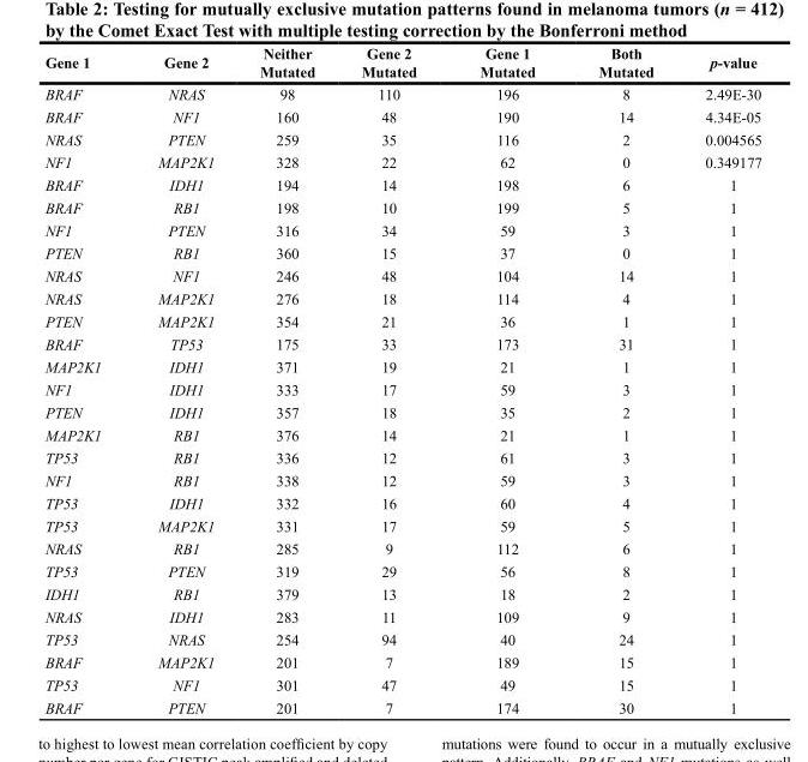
<table><thead><tr><td>Gene 1</td><td>Gene 2</td><td>Neither Mutated</td><td>Gene 2 Mutated</td><td>Gene 1 Mutated</td><td>Both Mutated</td><td>p-value</td></tr></thead><tbody><tr><td>BRAF</td><td>NRAS</td><td>98</td><td>110</td><td>196</td><td>8</td><td>2.49E-30</td></tr><tr><td>BRAF</td><td>NF1</td><td>160</td><td>48</td><td>190</td><td>14</td><td>4.34E-05</td></tr><tr><td>NRAS</td><td>PTEN</td><td>259</td><td>35</td><td>116</td><td>2</td><td>0.004565</td></tr><tr><td>NF1</td><td>MAP2K1</td><td>328</td><td>22</td><td>62</td><td>0</td><td>0.349177</td></tr><tr><td>BRAF</td><td>IDH1</td><td>194</td><td>14</td><td>198</td><td>6</td><td>1</td></tr><tr><td>BRAF</td><td>RB1</td><td>198</td><td>10</td><td>199</td><td>5</td><td>1</td></tr><tr><td>NF1</td><td>PTEN</td><td>316</td><td>34</td><td>59</td><td>3</td><td>1</td></tr><tr><td>PTEN</td><td>RB1</td><td>360</td><td>15</td><td>37</td><td>0</td><td>1</td></tr><tr><td>NRAS</td><td>NF1</td><td>246</td><td>48</td><td>104</td><td>14</td><td>1</td></tr><tr><td>NRAS</td><td>MAP2K1</td><td>276</td><td>18</td><td>114</td><td>4</td><td>1</td></tr><tr><td>PTEN</td><td>MAP2K1</td><td>354</td><td>21</td><td>36</td><td>1</td><td>1</td></tr><tr><td>BRAF</td><td>TP53</td><td>175</td><td>33</td><td>173</td><td>31</td><td>1</td></tr><tr><td>MAP2K1</td><td>IDH1</td><td>371</td><td>19</td><td>21</td><td>1</td><td>1</td></tr><tr><td>NF1</td><td>IDH1</td><td>333</td><td>17</td><td>59</td><td>3</td><td>1</td></tr><tr><td>PTEN</td><td>IDH1</td><td>357</td><td>18</td><td>35</td><td>2</td><td>1</td></tr><tr><td>MAP2K1</td><td>RB1</td><td>376</td><td>14</td><td>21</td><td>1</td><td>1</td></tr><tr><td>TP53</td><td>RB1</td><td>336</td><td>12</td><td>61</td><td>3</td><td>1</td></tr><tr><td>NF1</td><td>RB1</td><td>338</td><td>12</td><td>59</td><td>3</td><td>1</td></tr><tr><td>TP53</td><td>IDH1</td><td>332</td><td>16</td><td>60</td><td>4</td><td>1</td></tr><tr><td>TP53</td><td>MAP2K1</td><td>331</td><td>17</td><td>59</td><td>5</td><td>1</td></tr><tr><td>NRAS</td><td>RB1</td><td>285</td><td>9</td><td>112</td><td>6</td><td>1</td></tr><tr><td>TP53</td><td>PTEN</td><td>319</td><td>29</td><td>56</td><td>8</td><td>1</td></tr><tr><td>IDH1</td><td>RB1</td><td>379</td><td>13</td><td>18</td><td>2</td><td>1</td></tr><tr><td>NRAS</td><td>IDH1</td><td>283</td><td>11</td><td>109</td><td>9</td><td>1</td></tr><tr><td>TP53</td><td>NRAS</td><td>254</td><td>94</td><td>40</td><td>24</td><td>1</td></tr><tr><td>BRAF</td><td>MAP2K1</td><td>201</td><td>7</td><td>189</td><td>15</td><td>1</td></tr><tr><td>TP53</td><td>NF1</td><td>301</td><td>47</td><td>49</td><td>15</td><td>1</td></tr><tr><td>BRAF</td><td>PTEN</td><td>201</td><td>7</td><td>174</td><td>30</td><td>1</td></tr></tbody></table>